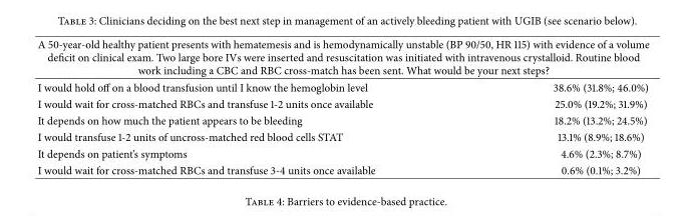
<table><thead><tr><td colspan="2">A 50-year-old healthy patient presents with hematemesis and is hemodynamically unstable (BP 90/50, HR 115) with evidence of a volume deficit on clinical exam. Two large bore IVs were inserted and resuscitation was initiated with intravenous crystalloid. Routine blood work including a CBC and RBC cross-match has been sent. What would be your next steps?</td></tr><tr><td>I would hold off on a blood transfusion until I know the hemoglobin level</td><td>38.6% (31.8%; 46.0%)</td></tr></thead><tbody><tr><td>I would wait for cross-matched RBCs and transfuse 1-2 units once available</td><td>25.0% (19.2%; 31.9%)</td></tr><tr><td>It depends on how much the patient appears to be bleeding</td><td>18.2% (13.2%; 24.5%)</td></tr><tr><td>I would transfuse 1-2 units of uncross-matched red blood cells STAT</td><td>13.1% (8.9%; 18.6%)</td></tr><tr><td>It depends on patient’s symptoms</td><td>4.6% (2.3%; 8.7%)</td></tr><tr><td>I would wait for cross-matched RBCs and transfuse 3-4 units once available</td><td>0.6% (0.1%; 3.2%)</td></tr></tbody></table>